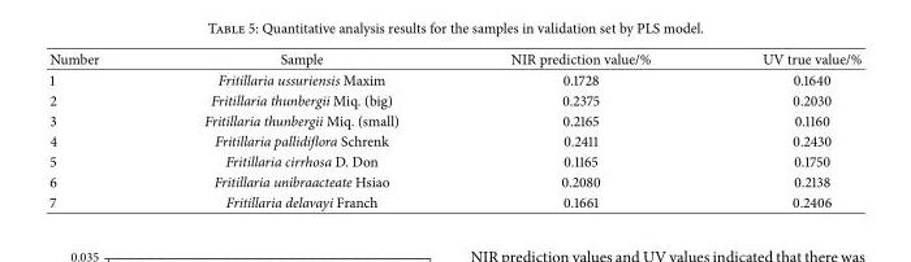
<table><thead><tr><td>Number</td><td>Sample</td><td>NIR prediction value/%</td><td>UV true value/%</td></tr></thead><tbody><tr><td>1</td><td>Fritillaria ussuriensis Maxim</td><td>0.1728</td><td>0.1640</td></tr><tr><td>2</td><td>Fritillaria thunbergii Miq. (big)</td><td>0.2375</td><td>0.2030</td></tr><tr><td>3</td><td>Fritillaria thunbergii Miq. (small)</td><td>0.2165</td><td>0.1160</td></tr><tr><td>4</td><td>Fritillaria pallidiflora Schrenk</td><td>0.2411</td><td>0.2430</td></tr><tr><td>5</td><td>Fritillaria cirrhosa D. Don</td><td>0.1165</td><td>0.1750</td></tr><tr><td>6</td><td>Fritillaria unibraacteate Hsiao</td><td>0.2080</td><td>0.2138</td></tr><tr><td>7</td><td>Fritillaria delavayi Franch</td><td>0.1661</td><td>0.2406</td></tr></tbody></table>